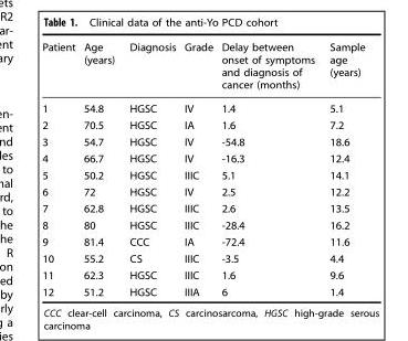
<table><thead><tr><td>Patient</td><td>Age (years)</td><td>Diagnosis</td><td>Grade</td><td>Delay between onset of symptoms and diagnosis of cancer (months)</td><td>Sample age (years)</td></tr></thead><tbody><tr><td>1</td><td>54.8</td><td>HGSC</td><td>IV</td><td>1.4</td><td>5.1</td></tr><tr><td>2</td><td>70.5</td><td>HGSC</td><td>IA</td><td>1.6</td><td>7.2</td></tr><tr><td>3</td><td>54.7</td><td>HGSC</td><td>IV</td><td>-54.8</td><td>18.6</td></tr><tr><td>4</td><td>66.7</td><td>HGSC</td><td>IV</td><td>-16.3</td><td>12.4</td></tr><tr><td>5</td><td>50.2</td><td>HGSC</td><td>IIIC</td><td>5.1</td><td>14.1</td></tr><tr><td>6</td><td>72</td><td>HGSC</td><td>IV</td><td>2.5</td><td>12.2</td></tr><tr><td>7</td><td>62.8</td><td>HGSC</td><td>IIIC</td><td>2.6</td><td>13.5</td></tr><tr><td>8</td><td>80</td><td>HGSC</td><td>IIIC</td><td>-28.4</td><td>16.2</td></tr><tr><td>9</td><td>81.4</td><td>CCC</td><td>IA</td><td>-72.4</td><td>11.6</td></tr><tr><td>10</td><td>55.2</td><td>CS</td><td>IIIC</td><td>-3.5</td><td>4.4</td></tr><tr><td>11</td><td>62.3</td><td>HGSC</td><td>IIIC</td><td>1.6</td><td>9.6</td></tr><tr><td>12</td><td>51.2</td><td>HGSC</td><td>IIIA</td><td>6</td><td>1.4</td></tr></tbody></table>